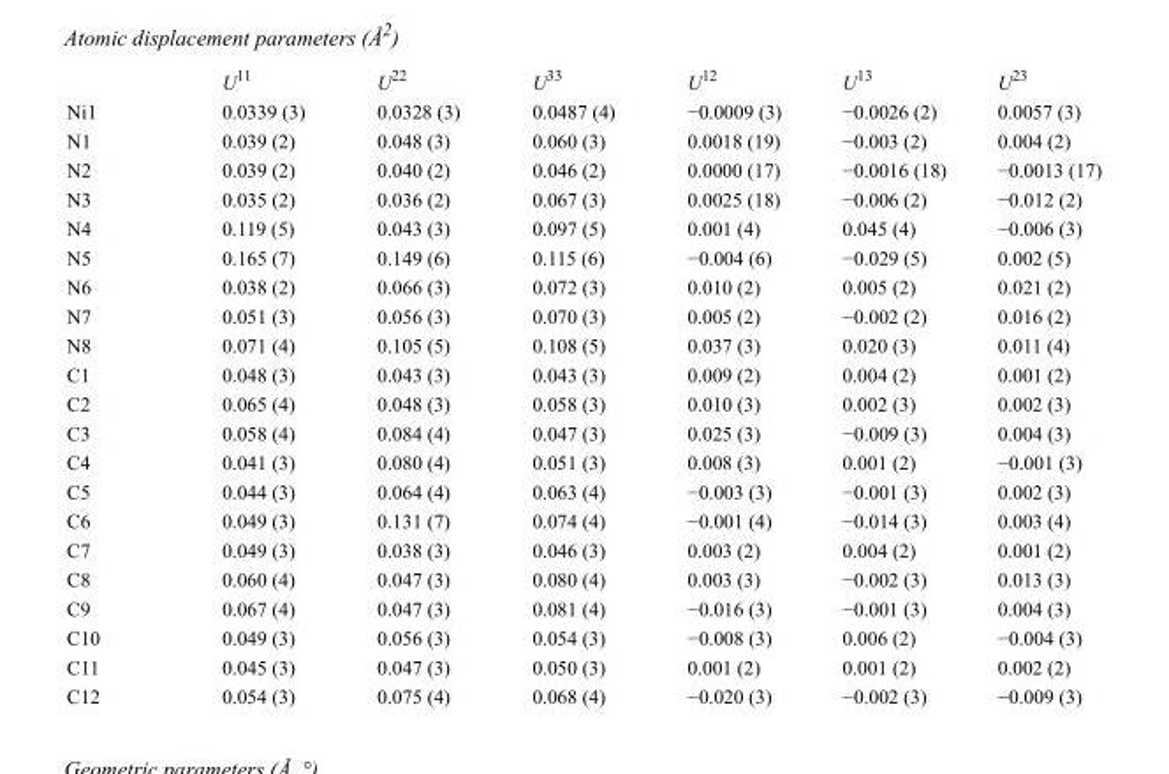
<table><thead><tr><td></td><td>U<sup>11</sup></td><td>U<sup>22</sup></td><td>U<sup>33</sup></td><td>U<sup>12</sup></td><td>U<sup>13</sup></td><td>U<sup>23</sup></td></tr></thead><tbody><tr><td>Ni1</td><td>0.0339 (3)</td><td>0.0328 (3)</td><td>0.0487 (4)</td><td>−0.0009 (3)</td><td>−0.0026 (2)</td><td>0.0057 (3)</td></tr><tr><td>N1</td><td>0.039 (2)</td><td>0.048 (3)</td><td>0.060 (3)</td><td>0.0018 (19)</td><td>−0.003 (2)</td><td>0.004 (2)</td></tr><tr><td>N2</td><td>0.039 (2)</td><td>0.040 (2)</td><td>0.046 (2)</td><td>0.0000 (17)</td><td>−0.0016 (18)</td><td>−0.0013 (17)</td></tr><tr><td>N3</td><td>0.035 (2)</td><td>0.036 (2)</td><td>0.067 (3)</td><td>0.0025 (18)</td><td>−0.006 (2)</td><td>−0.012 (2)</td></tr><tr><td>N4</td><td>0.119 (5)</td><td>0.043 (3)</td><td>0.097 (5)</td><td>0.001 (4)</td><td>0.045 (4)</td><td>−0.006 (3)</td></tr><tr><td>N5</td><td>0.165 (7)</td><td>0.149 (6)</td><td>0.115 (6)</td><td>−0.004 (6)</td><td>−0.029 (5)</td><td>0.002 (5)</td></tr><tr><td>N6</td><td>0.038 (2)</td><td>0.066 (3)</td><td>0.072 (3)</td><td>0.010 (2)</td><td>0.005 (2)</td><td>0.021 (2)</td></tr><tr><td>N7</td><td>0.051 (3)</td><td>0.056 (3)</td><td>0.070 (3)</td><td>0.005 (2)</td><td>−0.002 (2)</td><td>0.016 (2)</td></tr><tr><td>N8</td><td>0.071 (4)</td><td>0.105 (5)</td><td>0.108 (5)</td><td>0.037 (3)</td><td>0.020 (3)</td><td>0.011 (4)</td></tr><tr><td>C1</td><td>0.048 (3)</td><td>0.043 (3)</td><td>0.043 (3)</td><td>0.009 (2)</td><td>0.004 (2)</td><td>0.001 (2)</td></tr><tr><td>C2</td><td>0.065 (4)</td><td>0.048 (3)</td><td>0.058 (3)</td><td>0.010 (3)</td><td>0.002 (3)</td><td>0.002 (3)</td></tr><tr><td>C3</td><td>0.058 (4)</td><td>0.084 (4)</td><td>0.047 (3)</td><td>0.025 (3)</td><td>−0.009 (3)</td><td>0.004 (3)</td></tr><tr><td>C4</td><td>0.041 (3)</td><td>0.080 (4)</td><td>0.051 (3)</td><td>0.008 (3)</td><td>0.001 (2)</td><td>−0.001 (3)</td></tr><tr><td>C5</td><td>0.044 (3)</td><td>0.064 (4)</td><td>0.063 (4)</td><td>−0.003 (3)</td><td>−0.001 (3)</td><td>0.002 (3)</td></tr><tr><td>C6</td><td>0.049 (3)</td><td>0.131 (7)</td><td>0.074 (4)</td><td>−0.001 (4)</td><td>−0.014 (3)</td><td>0.003 (4)</td></tr><tr><td>C7</td><td>0.049 (3)</td><td>0.038 (3)</td><td>0.046 (3)</td><td>0.003 (2)</td><td>0.004 (2)</td><td>0.001 (2)</td></tr><tr><td>C8</td><td>0.060 (4)</td><td>0.047 (3)</td><td>0.080 (4)</td><td>0.003 (3)</td><td>−0.002 (3)</td><td>0.013 (3)</td></tr><tr><td>C9</td><td>0.067 (4)</td><td>0.047 (3)</td><td>0.081 (4)</td><td>−0.016 (3)</td><td>−0.001 (3)</td><td>0.004 (3)</td></tr><tr><td>C10</td><td>0.049 (3)</td><td>0.056 (3)</td><td>0.054 (3)</td><td>−0.008 (3)</td><td>0.006 (2)</td><td>−0.004 (3)</td></tr><tr><td>C11</td><td>0.045 (3)</td><td>0.047 (3)</td><td>0.050 (3)</td><td>0.001 (2)</td><td>0.001 (2)</td><td>0.002 (2)</td></tr><tr><td>C12</td><td>0.054 (3)</td><td>0.075 (4)</td><td>0.068 (4)</td><td>−0.020 (3)</td><td>−0.002 (3)</td><td>−0.009 (3)</td></tr></tbody></table>